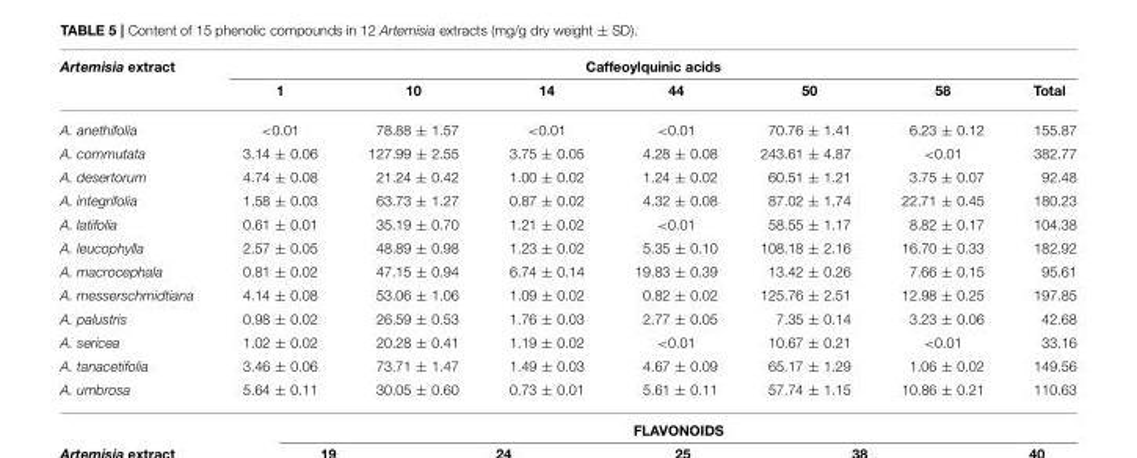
<table><thead><tr><td rowspan="2">Artemisia extract</td><td colspan="7">Caffeoylquinic acids</td></tr><tr><td>1</td><td>10</td><td>14</td><td>44</td><td>50</td><td>58</td><td>Total</td></tr></thead><tbody><tr><td>A. anethifolia</td><td>&lt;0.01</td><td>78.88 ± 1.57</td><td>&lt;0.01</td><td>&lt;0.01</td><td>70.76 ± 1.41</td><td>6.23 ± 0.12</td><td>155.87</td></tr><tr><td>A. commutata</td><td>3.14 ± 0.06</td><td>127.99 ± 2.55</td><td>3.75 ± 0.05</td><td>4.28 ± 0.08</td><td>243.61 ± 4.87</td><td>&lt;0.01</td><td>382.77</td></tr><tr><td>A. desertorum</td><td>4.74 ± 0.08</td><td>21.24 ± 0.42</td><td>1.00 ± 0.02</td><td>1.24 ± 0.02</td><td>60.51 ± 1.21</td><td>3.75 ± 0.07</td><td>92.48</td></tr><tr><td>A. integrifolia</td><td>1.58 ± 0.03</td><td>63.73 ± 1.27</td><td>0.87 ± 0.02</td><td>4.32 ± 0.08</td><td>87.02 ± 1.74</td><td>22.71 ± 0.45</td><td>180.23</td></tr><tr><td>A. latifolia</td><td>0.61 ± 0.01</td><td>35.19 ± 0.70</td><td>1.21 ± 0.02</td><td>&lt;0.01</td><td>58.55 ± 1.17</td><td>8.82 ± 0.17</td><td>104.38</td></tr><tr><td>A. leucophylla</td><td>2.57 ± 0.05</td><td>48.89 ± 0.98</td><td>1.23 ± 0.02</td><td>5.35 ± 0.10</td><td>108.18 ± 2.16</td><td>16.70 ± 0.33</td><td>182.92</td></tr><tr><td>A. macrocephala</td><td>0.81 ± 0.02</td><td>47.15 ± 0.94</td><td>6.74 ± 0.14</td><td>19.83 ± 0.39</td><td>13.42 ± 0.26</td><td>7.66 ± 0.15</td><td>95.61</td></tr><tr><td>A. messerschmidtiana</td><td>4.14 ± 0.08</td><td>53.06 ± 1.06</td><td>1.09 ± 0.02</td><td>0.82 ± 0.02</td><td>125.76 ± 2.51</td><td>12.98 ± 0.25</td><td>197.85</td></tr><tr><td>A. palustris</td><td>0.98 ± 0.02</td><td>26.59 ± 0.53</td><td>1.76 ± 0.03</td><td>2.77 ± 0.05</td><td>7.35 ± 0.14</td><td>3.23 ± 0.06</td><td>42.68</td></tr><tr><td>A. sericea</td><td>1.02 ± 0.02</td><td>20.28 ± 0.41</td><td>1.19 ± 0.02</td><td>&lt;0.01</td><td>10.67 ± 0.21</td><td>&lt;0.01</td><td>33.16</td></tr><tr><td>A. tanacetifolia</td><td>3.46 ± 0.06</td><td>73.71 ± 1.47</td><td>1.49 ± 0.03</td><td>4.67 ± 0.09</td><td>65.17 ± 1.29</td><td>1.06 ± 0.02</td><td>149.56</td></tr><tr><td>A. umbrosa</td><td>5.64 ± 0.11</td><td>30.05 ± 0.60</td><td>0.73 ± 0.01</td><td>5.61 ± 0.11</td><td>57.74 ± 1.15</td><td>10.86 ± 0.21</td><td>110.63</td></tr></tbody></table>